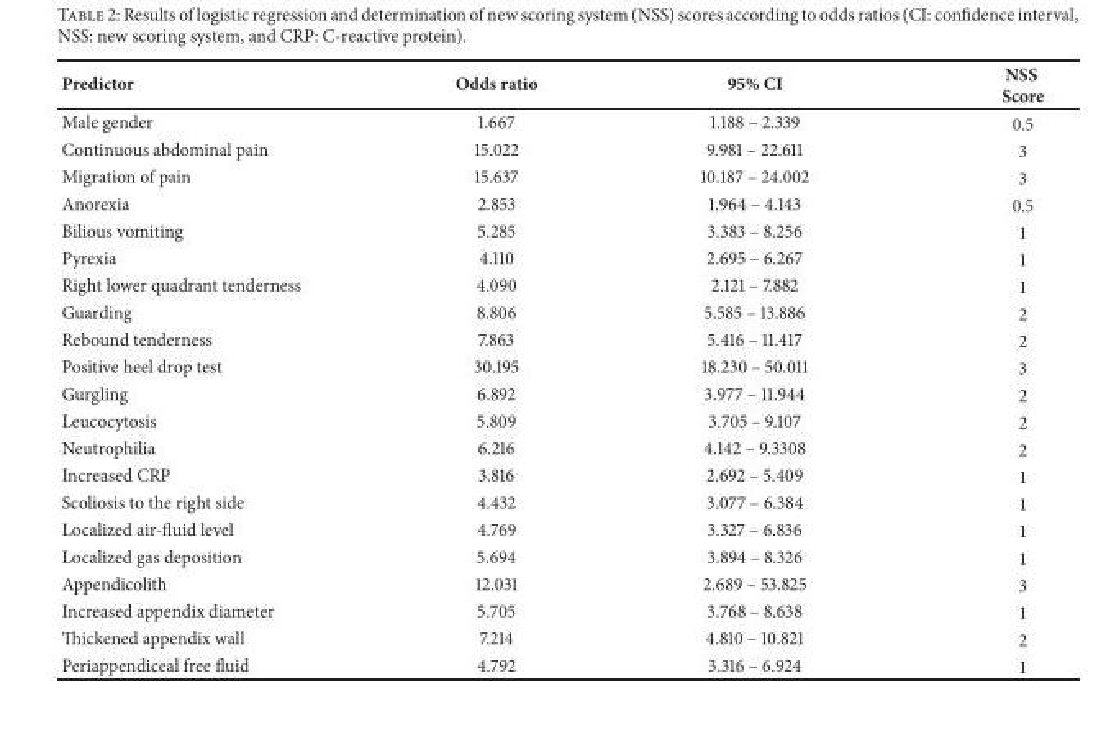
<table><thead><tr><td>Predictor</td><td>Odds ratio</td><td>95% CI</td><td>NSS Score</td></tr></thead><tbody><tr><td>Male gender</td><td>1.667</td><td>1.188 – 2.339</td><td>0.5</td></tr><tr><td>Continuous abdominal pain</td><td>15.022</td><td>9.981 – 22.611</td><td>3</td></tr><tr><td>Migration of pain</td><td>15.637</td><td>10.187 – 24.002</td><td>3</td></tr><tr><td>Anorexia</td><td>2.853</td><td>1.964 – 4.143</td><td>0.5</td></tr><tr><td>Bilious vomiting</td><td>5.285</td><td>3.383 – 8.256</td><td>1</td></tr><tr><td>Pyrexia</td><td>4.110</td><td>2.695 – 6.267</td><td>1</td></tr><tr><td>Right lower quadrant tenderness</td><td>4.090</td><td>2.121 – 7.882</td><td>1</td></tr><tr><td>Guarding</td><td>8.806</td><td>5.585 – 13.886</td><td>2</td></tr><tr><td>Rebound tenderness</td><td>7.863</td><td>5.416 – 11.417</td><td>2</td></tr><tr><td>Positive heel drop test</td><td>30.195</td><td>18.230 – 50.011</td><td>3</td></tr><tr><td>Gurgling</td><td>6.892</td><td>3.977 – 11.944</td><td>2</td></tr><tr><td>Leucocytosis</td><td>5.809</td><td>3.705 – 9.107</td><td>2</td></tr><tr><td>Neutrophilia</td><td>6.216</td><td>4.142 – 9.3308</td><td>2</td></tr><tr><td>Increased CRP</td><td>3.816</td><td>2.692 – 5.409</td><td>1</td></tr><tr><td>Scoliosis to the right side</td><td>4.432</td><td>3.077 – 6.384</td><td>1</td></tr><tr><td>Localized air-fluid level</td><td>4.769</td><td>3.327 – 6.836</td><td>1</td></tr><tr><td>Localized gas deposition</td><td>5.694</td><td>3.894 – 8.326</td><td>1</td></tr><tr><td>Appendicolith</td><td>12.031</td><td>2.689 – 53.825</td><td>3</td></tr><tr><td>Increased appendix diameter</td><td>5.705</td><td>3.768 – 8.638</td><td>1</td></tr><tr><td>Thickened appendix wall</td><td>7.214</td><td>4.810 – 10.821</td><td>2</td></tr><tr><td>Periappendiceal free fluid</td><td>4.792</td><td>3.316 – 6.924</td><td>1</td></tr></tbody></table>